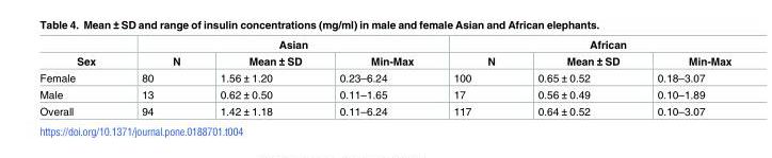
<table><thead><tr><td rowspan="2">Sex</td><td colspan="3">Asian</td><td colspan="3">African</td></tr><tr><td>N</td><td>Mean ± SD</td><td>Min-Max</td><td>N</td><td>Mean ± SD</td><td>Min-Max</td></tr></thead><tbody><tr><td>Female</td><td>80</td><td>1.56 ± 1.20</td><td>0.23–6.24</td><td>100</td><td>0.65 ± 0.52</td><td>0.18–3.07</td></tr><tr><td>Male</td><td>13</td><td>0.62 ± 0.50</td><td>0.11–1.65</td><td>17</td><td>0.56 ± 0.49</td><td>0.10–1.89</td></tr><tr><td>Overall</td><td>94</td><td>1.42 ± 1.18</td><td>0.11–6.24</td><td>117</td><td>0.64 ± 0.52</td><td>0.10–3.07</td></tr></tbody></table>